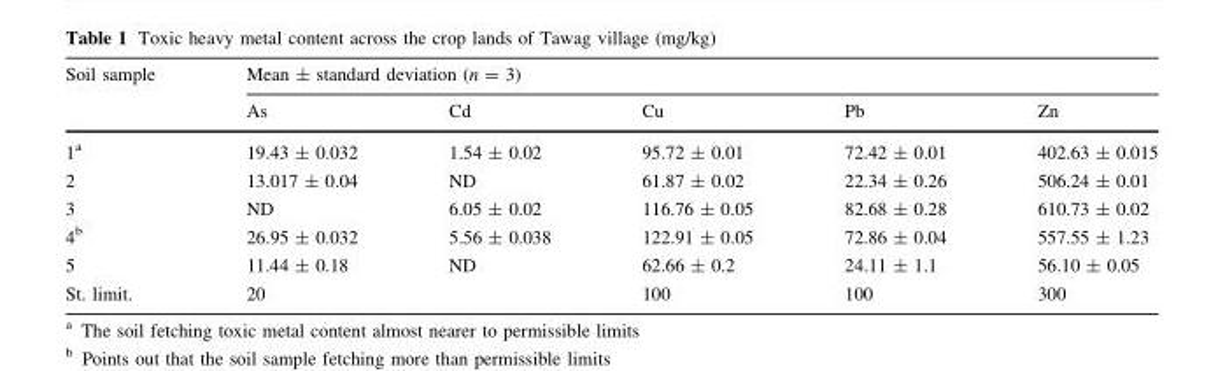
<table><thead><tr><td rowspan="2">Soil sample</td><td colspan="5">Mean ± standard deviation (n = 3)</td></tr><tr><td>As</td><td>Cd</td><td>Cu</td><td>Pb</td><td>Zn</td></tr></thead><tbody><tr><td>1<sup>a</sup></td><td>19.43 ± 0.032</td><td>1.54 ± 0.02</td><td>95.72 ± 0.01</td><td>72.42 ± 0.01</td><td>402.63 ± 0.015</td></tr><tr><td>2</td><td>13.017 ± 0.04</td><td>ND</td><td>61.87 ± 0.02</td><td>22.34 ± 0.26</td><td>506.24 ± 0.01</td></tr><tr><td>3</td><td>ND</td><td>6.05 ± 0.02</td><td>116.76 ± 0.05</td><td>82.68 ± 0.28</td><td>610.73 ± 0.02</td></tr><tr><td>4<sup>b</sup></td><td>26.95 ± 0.032</td><td>5.56 ± 0.038</td><td>122.91 ± 0.05</td><td>72.86 ± 0.04</td><td>557.55 ± 1.23</td></tr><tr><td>5</td><td>11.44 ± 0.18</td><td>ND</td><td>62.66 ± 0.2</td><td>24.11 ± 1.1</td><td>56.10 ± 0.05</td></tr><tr><td>St. limit.</td><td>20</td><td></td><td>100</td><td>100</td><td>300</td></tr></tbody></table>